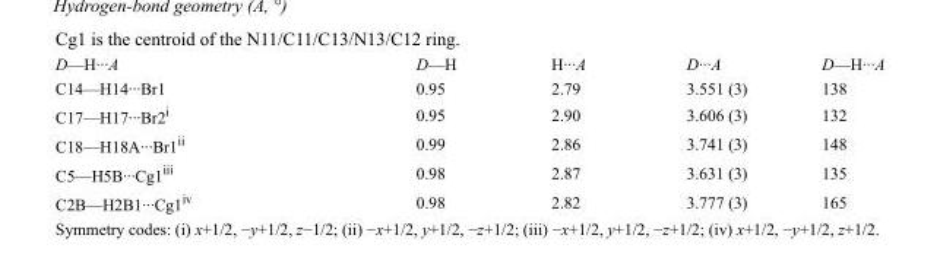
<table><tbody><tr><td>D—H···A</td><td>D—H</td><td>H···A</td><td>D···A</td><td>D—H···A</td></tr><tr><td>C14—H14···Br1</td><td>0.95</td><td>2.79</td><td>3.551 (3)</td><td>138</td></tr><tr><td>C17—H17···Br2<sup>i</sup></td><td>0.95</td><td>2.90</td><td>3.606 (3)</td><td>132</td></tr><tr><td>C18—H18A···Br1<sup>ii</sup></td><td>0.99</td><td>2.86</td><td>3.741 (3)</td><td>148</td></tr><tr><td>C5—H5B···Cg1<sup>iii</sup></td><td>0.98</td><td>2.87</td><td>3.631 (3)</td><td>135</td></tr><tr><td>C2B—H2B1···Cg1<sup>iv</sup></td><td>0.98</td><td>2.82</td><td>3.777 (3)</td><td>165</td></tr></tbody></table>